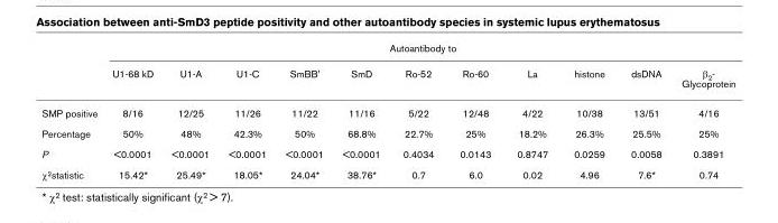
<table><thead><tr><td rowspan="2"></td><td colspan="11">Autoantibody to</td></tr><tr><td>U1-68 kD</td><td>U1-A</td><td>U1-C</td><td>SmBB&#x27;</td><td>SmD</td><td>Ro-52</td><td>Ro-60</td><td>La</td><td>histone</td><td>dsDNA</td><td>β2- Glycoprotein</td></tr></thead><tbody><tr><td>SMP positive</td><td>8/16</td><td>12/25</td><td>11/26</td><td>11/22</td><td>11/16</td><td>5/22</td><td>12/48</td><td>4/22</td><td>10/38</td><td>13/51</td><td>4/16</td></tr><tr><td>Percentage</td><td>50%</td><td>48%</td><td>42.3%</td><td>50%</td><td>68.8%</td><td>22.7%</td><td>25%</td><td>18.2%</td><td>26.3%</td><td>25.5%</td><td>25%</td></tr><tr><td>P</td><td>&lt;0.0001</td><td>&lt;0.0001</td><td>&lt;0.0001</td><td>&lt;0.0001</td><td>&lt;0.0001</td><td>0.4034</td><td>0.0143</td><td>0.8747</td><td>0.0259</td><td>0.0058</td><td>0.3891</td></tr><tr><td>χ2statistic</td><td>15.42*</td><td>25.49*</td><td>18.05*</td><td>24.04*</td><td>38.76*</td><td>0.7</td><td>6.0</td><td>0.02</td><td>4.96</td><td>7.6*</td><td>0.74</td></tr></tbody></table>